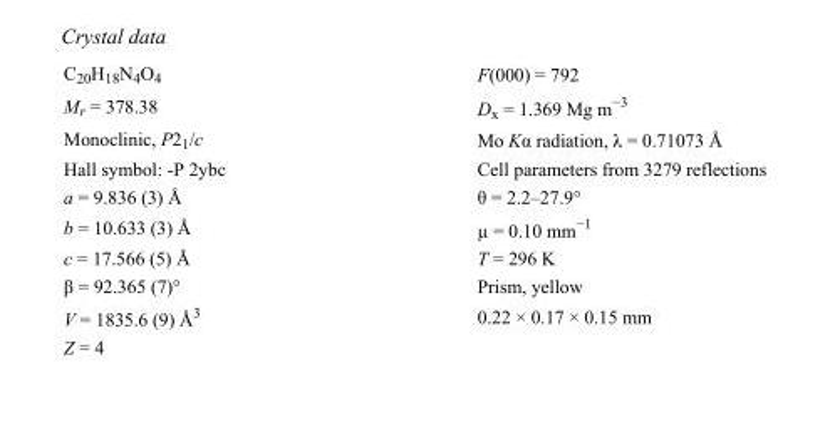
<table><tbody><tr><td>C<sub>20</sub>H<sub>18</sub>N<sub>4</sub>O<sub>4</sub></td><td>F(000) = 792</td></tr><tr><td>M<sub>r</sub> = 378.38</td><td>D<sub>x</sub> = 1.369 Mg m<sup>−3</sup></td></tr><tr><td>Monoclinic, P2<sub>1</sub>/c</td><td>Mo Kα radiation, λ = 0.71073 Å</td></tr><tr><td>Hall symbol: -P 2ybc</td><td>Cell parameters from 3279 reflections</td></tr><tr><td>a = 9.836 (3) Å</td><td>θ = 2.2–27.9°</td></tr><tr><td>b = 10.633 (3) Å</td><td>µ = 0.10 mm<sup>−1</sup></td></tr><tr><td>c = 17.566 (5) Å</td><td>T = 296 K</td></tr><tr><td>β = 92.365 (7)°</td><td>Prism, yellow</td></tr><tr><td>V = 1835.6 (9) Å<sup>3</sup></td><td>0.22 × 0.17 × 0.15 mm</td></tr><tr><td>Z = 4</td><td></td></tr></tbody></table>